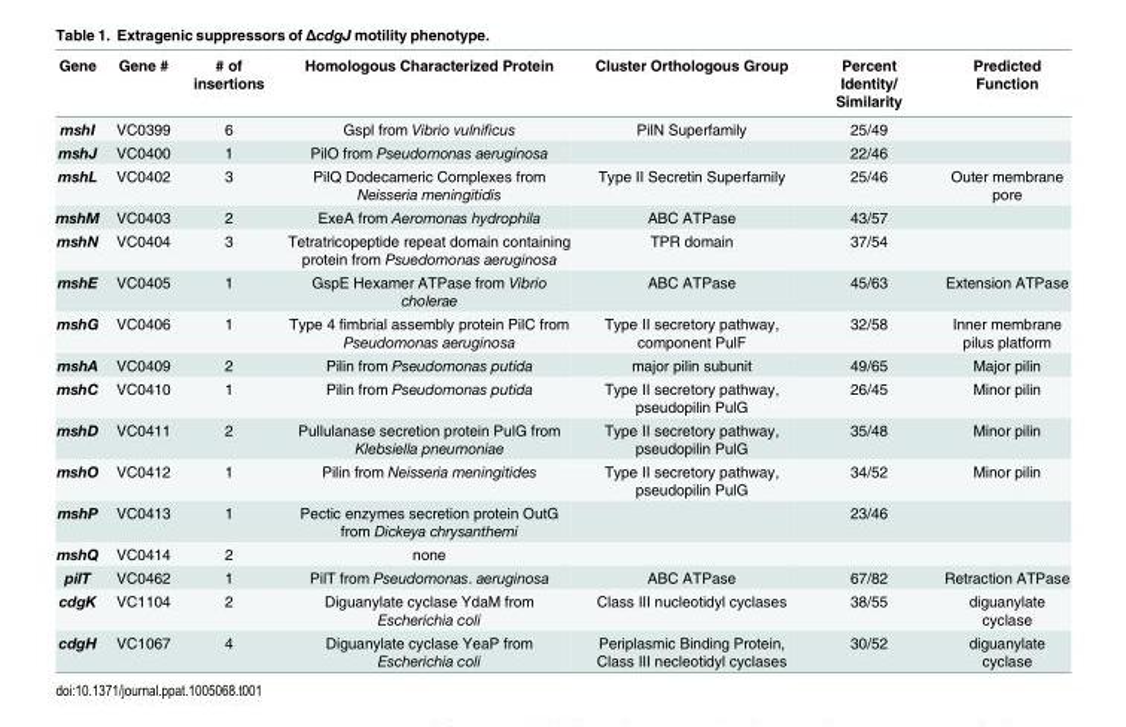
<table><thead><tr><td>Gene</td><td>Gene #</td><td># of insertions</td><td>Homologous Characterized Protein</td><td>Cluster Orthologous Group</td><td>Percent Identity/ Similarity</td><td>Predicted Function</td></tr></thead><tbody><tr><td>mshI</td><td>VC0399</td><td>6</td><td>Gspl from Vibrio vulnificus</td><td>PilN Superfamily</td><td>25/49</td><td></td></tr><tr><td>mshJ</td><td>VC0400</td><td>1</td><td>PilO from Pseudomonas aeruginosa</td><td></td><td>22/46</td><td></td></tr><tr><td>mshL</td><td>VC0402</td><td>3</td><td>PilQ Dodecameric Complexes from Neisseria meningitidis</td><td>Type II Secretin Superfamily</td><td>25/46</td><td>Outer membrane pore</td></tr><tr><td>mshM</td><td>VC0403</td><td>2</td><td>ExeA from Aeromonas hydrophila</td><td>ABC ATPase</td><td>43/57</td><td></td></tr><tr><td>mshN</td><td>VC0404</td><td>3</td><td>Tetratricopeptide repeat domain containing protein from Psuedomonas aeruginosa</td><td>TPR domain</td><td>37/54</td><td></td></tr><tr><td>mshE</td><td>VC0405</td><td>1</td><td>GspE Hexamer ATPase from Vibrio cholerae</td><td>ABC ATPase</td><td>45/63</td><td>Extension ATPase</td></tr><tr><td>mshG</td><td>VC0406</td><td>1</td><td>Type 4 fimbrial assembly protein PilC from Pseudomonas aeruginosa</td><td>Type II secretory pathway, component PulF</td><td>32/58</td><td>Inner membrane pilus platform</td></tr><tr><td>mshA</td><td>VC0409</td><td>2</td><td>Pilin from Pseudomonas putida</td><td>major pilin subunit</td><td>49/65</td><td>Major pilin</td></tr><tr><td>mshC</td><td>VC0410</td><td>1</td><td>Pilin from Pseudomonas putida</td><td>Type II secretory pathway, pseudopilin PulG</td><td>26/45</td><td>Minor pilin</td></tr><tr><td>mshD</td><td>VC0411</td><td>2</td><td>Pullulanase secretion protein PulG from Klebsiella pneumoniae</td><td>Type II secretory pathway, pseudopilin PulG</td><td>35/48</td><td>Minor pilin</td></tr><tr><td>mshO</td><td>VC0412</td><td>1</td><td>Pilin from Neisseria meningitides</td><td>Type II secretory pathway, pseudopilin PulG</td><td>34/52</td><td>Minor pilin</td></tr><tr><td>mshP</td><td>VC0413</td><td>1</td><td>Pectic enzymes secretion protein OutG from Dickeya chrysanthemi</td><td></td><td>23/46</td><td></td></tr><tr><td>mshQ</td><td>VC0414</td><td>2</td><td>none</td><td></td><td></td><td></td></tr><tr><td>pilT</td><td>VC0462</td><td>1</td><td>PilT from Pseudomonas. aeruginosa</td><td>ABC ATPase</td><td>67/82</td><td>Retraction ATPase</td></tr><tr><td>cdgK</td><td>VC1104</td><td>2</td><td>Diguanylate cyclase YdaM from Escherichia coli</td><td>Class III nucleotidyl cyclases</td><td>38/55</td><td>diguanylate cyclase</td></tr><tr><td>cdgH</td><td>VC1067</td><td>4</td><td>Diguanylate cyclase YeaP from Escherichia coli</td><td>Periplasmic Binding Protein, Class III necleotidyl cyclases</td><td>30/52</td><td>diguanylate cyclase</td></tr></tbody></table>